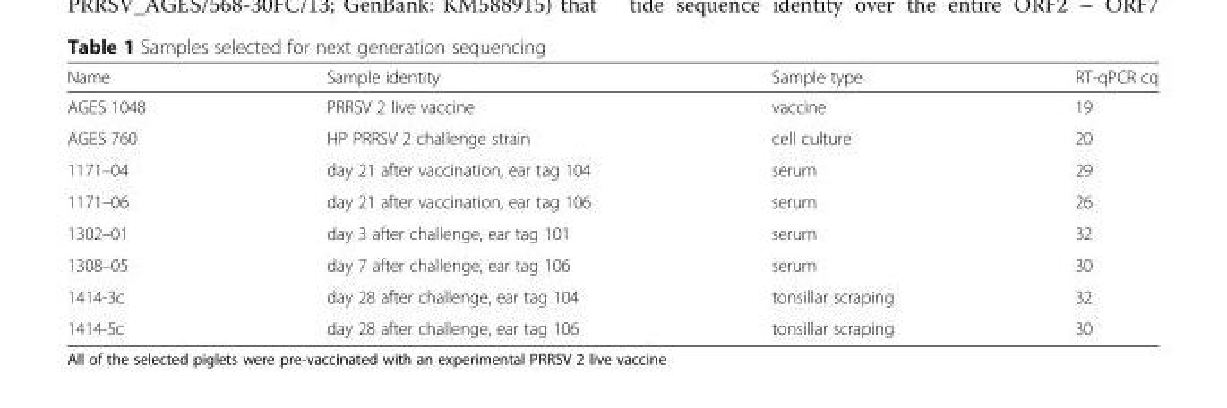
<table><thead><tr><td>Name</td><td>Sample identity</td><td>Sample type</td><td>RT-qPCR cq</td></tr></thead><tbody><tr><td>AGES 1048</td><td>PRRSV 2 live vaccine</td><td>vaccine</td><td>19</td></tr><tr><td>AGES 760</td><td>HP PRRSV 2 challenge strain</td><td>cell culture</td><td>20</td></tr><tr><td>1171–04</td><td>day 21 after vaccination, ear tag 104</td><td>serum</td><td>29</td></tr><tr><td>1171–06</td><td>day 21 after vaccination, ear tag 106</td><td>serum</td><td>26</td></tr><tr><td>1302–01</td><td>day 3 after challenge, ear tag 101</td><td>serum</td><td>32</td></tr><tr><td>1308–05</td><td>day 7 after challenge, ear tag 106</td><td>serum</td><td>30</td></tr><tr><td>1414-3c</td><td>day 28 after challenge, ear tag 104</td><td>tonsillar scraping</td><td>32</td></tr><tr><td>1414-5c</td><td>day 28 after challenge, ear tag 106</td><td>tonsillar scraping</td><td>30</td></tr></tbody></table>